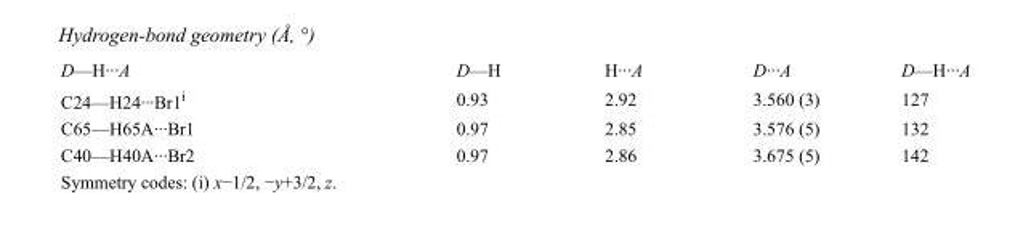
<table><tbody><tr><td>D—H···A</td><td>D—H</td><td>H···A</td><td>D···A</td><td>D—H···A</td></tr><tr><td>C24—H24···Br1<sup>i</sup></td><td>0.93</td><td>2.92</td><td>3.560 (3)</td><td>127</td></tr><tr><td>C65—H65A···Br1</td><td>0.97</td><td>2.85</td><td>3.576 (5)</td><td>132</td></tr><tr><td>C40—H40A···Br2</td><td>0.97</td><td>2.86</td><td>3.675 (5)</td><td>142</td></tr></tbody></table>